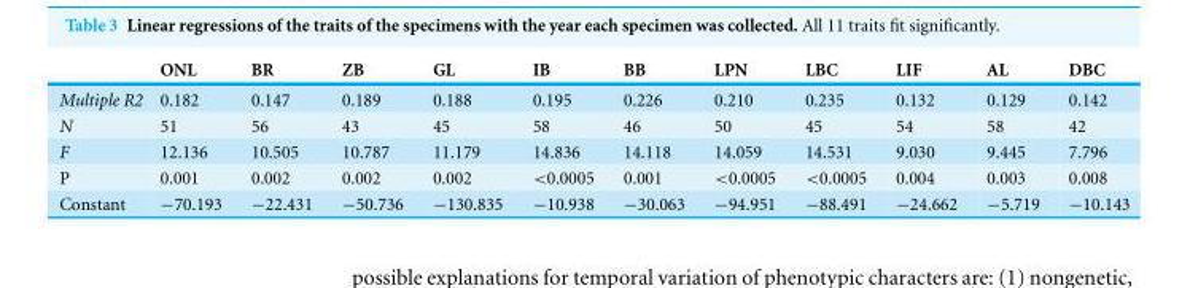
<table><thead><tr><td></td><td>ONL</td><td>BR</td><td>ZB</td><td>GL</td><td>IB</td><td>BB</td><td>LPN</td><td>LBC</td><td>LIF</td><td>AL</td><td>DBC</td></tr></thead><tbody><tr><td>Multiple R2</td><td>0.182</td><td>0.147</td><td>0.189</td><td>0.188</td><td>0.195</td><td>0.226</td><td>0.210</td><td>0.235</td><td>0.132</td><td>0.129</td><td>0.142</td></tr><tr><td>N</td><td>51</td><td>56</td><td>43</td><td>45</td><td>58</td><td>46</td><td>50</td><td>45</td><td>54</td><td>58</td><td>42</td></tr><tr><td>F</td><td>12.136</td><td>10.505</td><td>10.787</td><td>11.179</td><td>14.836</td><td>14.118</td><td>14.059</td><td>14.531</td><td>9.030</td><td>9.445</td><td>7.796</td></tr><tr><td>P</td><td>0.001</td><td>0.002</td><td>0.002</td><td>0.002</td><td>&lt;0.0005</td><td>0.001</td><td>&lt;0.0005</td><td>&lt;0.0005</td><td>0.004</td><td>0.003</td><td>0.008</td></tr><tr><td>Constant</td><td>−70.193</td><td>−22.431</td><td>−50.736</td><td>−130.835</td><td>−10.938</td><td>−30.063</td><td>−94.951</td><td>−88.491</td><td>−24.662</td><td>−5.719</td><td>−10.143</td></tr></tbody></table>